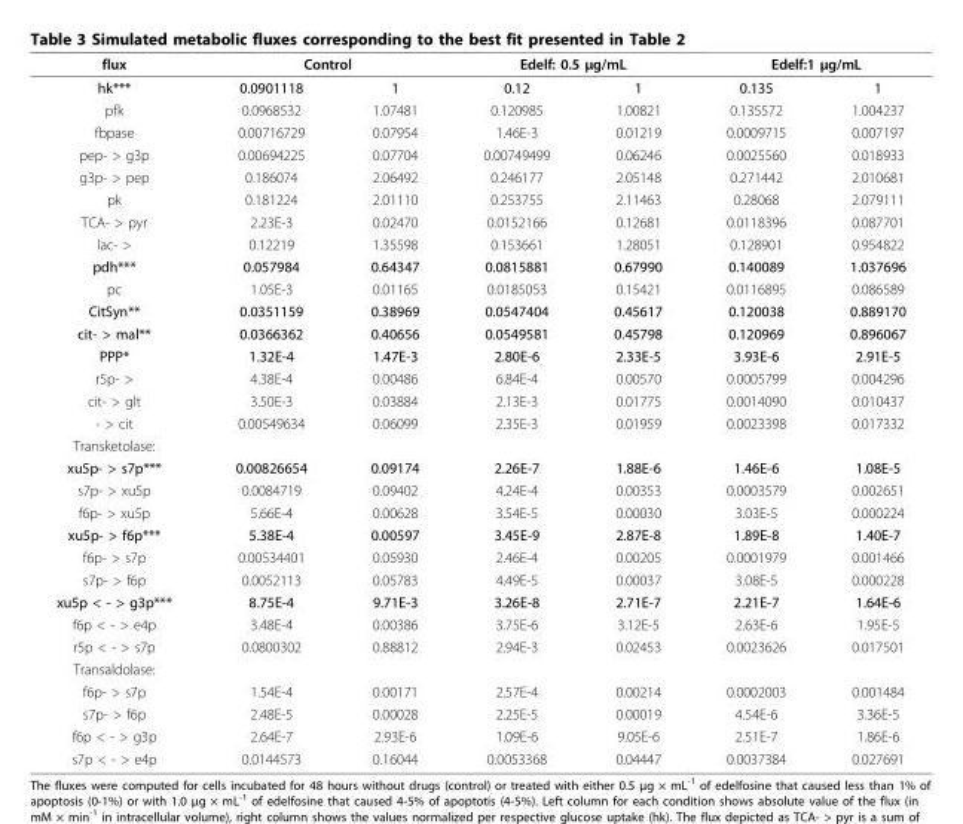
<table><thead><tr><td rowspan="2">flux hk***</td><td colspan="2">Control</td><td colspan="2">Edelf: 0.5 μg/mL</td><td colspan="2">Edelf:1 μg/mL</td></tr><tr><td>0.0901118</td><td>1</td><td>0.12</td><td>1</td><td>0.135</td><td>1</td></tr></thead><tbody><tr><td>pfk</td><td>0.0968532</td><td>1.07481</td><td>0.120985</td><td>1.00821</td><td>0.135572</td><td>1.004237</td></tr><tr><td>fbpase</td><td>0.00716729</td><td>0.07954</td><td>1.46E-3</td><td>0.01219</td><td>0.0009715</td><td>0.007197</td></tr><tr><td>pep- &gt; g3p</td><td>0.00694225</td><td>0.07704</td><td>0.00749499</td><td>0.06246</td><td>0.0025560</td><td>0.018933</td></tr><tr><td>g3p- &gt; pep</td><td>0.186074</td><td>2.06492</td><td>0.246177</td><td>2.05148</td><td>0.271442</td><td>2.010681</td></tr><tr><td>pk</td><td>0.181224</td><td>2.01110</td><td>0.253755</td><td>2.11463</td><td>0.28068</td><td>2.079111</td></tr><tr><td>TCA- &gt; pyr</td><td>2.23E-3</td><td>0.02470</td><td>0.0152166</td><td>0.12681</td><td>0.0118396</td><td>0.087701</td></tr><tr><td>lac- &gt;</td><td>0.12219</td><td>1.35598</td><td>0.153661</td><td>1.28051</td><td>0.128901</td><td>0.954822</td></tr><tr><td>pdh***</td><td>0.057984</td><td>0.64347</td><td>0.0815881</td><td>0.67990</td><td>0.140089</td><td>1.037696</td></tr><tr><td>pc</td><td>1.05E-3</td><td>0.01165</td><td>0.0185053</td><td>0.15421</td><td>0.0116895</td><td>0.086589</td></tr><tr><td>CitSyn**</td><td>0.0351159</td><td>0.38969</td><td>0.0547404</td><td>0.45617</td><td>0.120038</td><td>0.889170</td></tr><tr><td>cit- &gt; mal**</td><td>0.0366362</td><td>0.40656</td><td>0.0549581</td><td>0.45798</td><td>0.120969</td><td>0.896067</td></tr><tr><td>PPP*</td><td>1.32E-4</td><td>1.47E-3</td><td>2.80E-6</td><td>2.33E-5</td><td>3.93E-6</td><td>2.91E-5</td></tr><tr><td>r5p- &gt;</td><td>4.38E-4</td><td>0.00486</td><td>6.84E-4</td><td>0.00570</td><td>0.0005799</td><td>0.004296</td></tr><tr><td>cit- &gt; glt</td><td>3.50E-3</td><td>0.03884</td><td>2.13E-3</td><td>0.01775</td><td>0.0014090</td><td>0.010437</td></tr><tr><td>- &gt; cit</td><td>0.00549634</td><td>0.06099</td><td>2.35E-3</td><td>0.01959</td><td>0.0023398</td><td>0.017332</td></tr><tr><td colspan="7">Transketolase:</td></tr><tr><td>xu5p- &gt; s7p***</td><td>0.00826654</td><td>0.09174</td><td>2.26E-7</td><td>1.88E-6</td><td>1.46E-6</td><td>1.08E-5</td></tr><tr><td>s7p- &gt; xu5p</td><td>0.0084719</td><td>0.09402</td><td>4.24E-4</td><td>0.00353</td><td>0.0003579</td><td>0.002651</td></tr><tr><td>f6p- &gt; xu5p</td><td>5.66E-4</td><td>0.00628</td><td>3.54E-5</td><td>0.00030</td><td>3.03E-5</td><td>0.000224</td></tr><tr><td>xu5p- &gt; f6p***</td><td>5.38E-4</td><td>0.00597</td><td>3.45E-9</td><td>2.87E-8</td><td>1.89E-8</td><td>1.40E-7</td></tr><tr><td>f6p- &gt; s7p</td><td>0.00534401</td><td>0.05930</td><td>2.46E-4</td><td>0.00205</td><td>0.0001979</td><td>0.001466</td></tr><tr><td>s7p- &gt; f6p</td><td>0.0052113</td><td>0.05783</td><td>4.49E-5</td><td>0.00037</td><td>3.08E-5</td><td>0.000228</td></tr><tr><td>xu5p &lt; - &gt; g3p***</td><td>8.75E-4</td><td>9.71E-3</td><td>3.26E-8</td><td>2.71E-7</td><td>2.21E-7</td><td>1.64E-6</td></tr><tr><td>f6p &lt; - &gt; e4p</td><td>3.48E-4</td><td>0.00386</td><td>3.75E-6</td><td>3.12E-5</td><td>2.63E-6</td><td>1.95E-5</td></tr><tr><td>r5p &lt; - &gt; s7p</td><td>0.0800302</td><td>0.88812</td><td>2.94E-3</td><td>0.02453</td><td>0.0023626</td><td>0.017501</td></tr><tr><td colspan="7">Transaldolase:</td></tr><tr><td>f6p- &gt; s7p</td><td>1.54E-4</td><td>0.00171</td><td>2.57E-4</td><td>0.00214</td><td>0.0002003</td><td>0.001484</td></tr><tr><td>s7p- &gt; f6p</td><td>2.48E-5</td><td>0.00028</td><td>2.25E-5</td><td>0.00019</td><td>4.54E-6</td><td>3.36E-5</td></tr><tr><td>f6p &lt; - &gt; g3p</td><td>2.64E-7</td><td>2.93E-6</td><td>1.09E-6</td><td>9.05E-6</td><td>2.51E-7</td><td>1.86E-6</td></tr><tr><td>s7p &lt; - &gt; e4p</td><td>0.0144573</td><td>0.16044</td><td>0.0053368</td><td>0.04447</td><td>0.0037384</td><td>0.027691</td></tr></tbody></table>